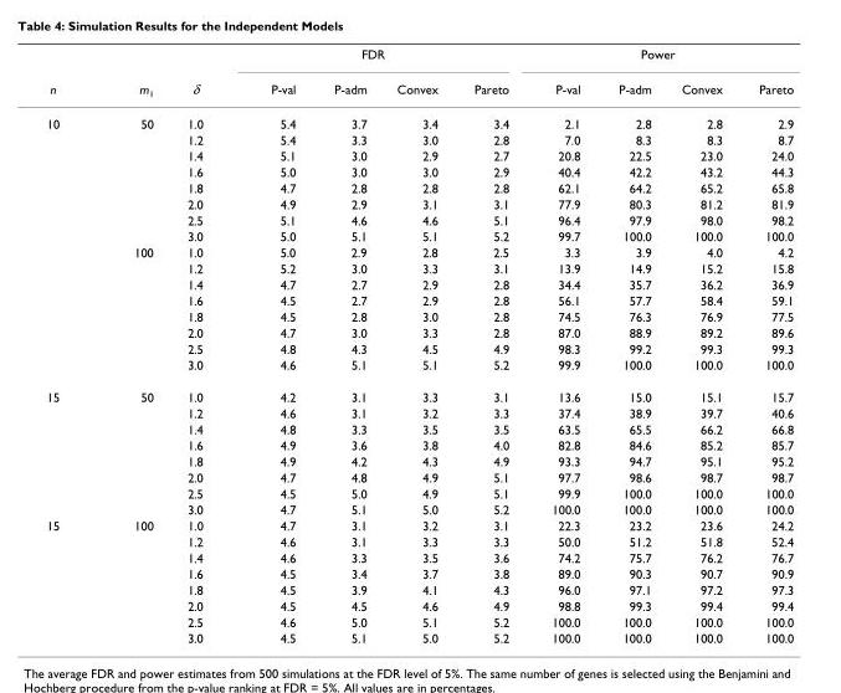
<table><thead><tr><td rowspan="2">n</td><td rowspan="2">m<sub>1</sub></td><td rowspan="2">δ</td><td colspan="4">FDR</td><td colspan="4">Power</td></tr><tr><td>P-val</td><td>P-adm</td><td>Convex</td><td>Pareto</td><td>P-val</td><td>P-adm</td><td>Convex</td><td>Pareto</td></tr></thead><tbody><tr><td rowspan="16">10</td><td>50</td><td>1.0</td><td>5.4</td><td>3.7</td><td>3.4</td><td>3.4</td><td>2.1</td><td>2.8</td><td>2.8</td><td>2.9</td></tr><tr><td></td><td>1.2</td><td>5.4</td><td>3.3</td><td>3.0</td><td>2.8</td><td>7.0</td><td>8.3</td><td>8.3</td><td>8.7</td></tr><tr><td></td><td>1.4</td><td>5.1</td><td>3.0</td><td>2.9</td><td>2.7</td><td>20.8</td><td>22.5</td><td>23.0</td><td>24.0</td></tr><tr><td></td><td>1.6</td><td>5.0</td><td>3.0</td><td>3.0</td><td>2.9</td><td>40.4</td><td>42.2</td><td>43.2</td><td>44.3</td></tr><tr><td></td><td>1.8</td><td>4.7</td><td>2.8</td><td>2.8</td><td>2.8</td><td>62.1</td><td>64.2</td><td>65.2</td><td>65.8</td></tr><tr><td></td><td>2.0</td><td>4.9</td><td>2.9</td><td>3.1</td><td>3.1</td><td>77.9</td><td>80.3</td><td>81.2</td><td>81.9</td></tr><tr><td></td><td>2.5</td><td>5.1</td><td>4.6</td><td>4.6</td><td>5.1</td><td>96.4</td><td>97.9</td><td>98.0</td><td>98.2</td></tr><tr><td></td><td>3.0</td><td>5.0</td><td>5.1</td><td>5.1</td><td>5.2</td><td>99.7</td><td>100.0</td><td>100.0</td><td>100.0</td></tr><tr><td>100</td><td>1.0</td><td>5.0</td><td>2.9</td><td>2.8</td><td>2.5</td><td>3.3</td><td>3.9</td><td>4.0</td><td>4.2</td></tr><tr><td></td><td>1.2</td><td>5.2</td><td>3.0</td><td>3.3</td><td>3.1</td><td>13.9</td><td>14.9</td><td>15.2</td><td>15.8</td></tr><tr><td></td><td>1.4</td><td>4.7</td><td>2.7</td><td>2.9</td><td>2.8</td><td>34.4</td><td>35.7</td><td>36.2</td><td>36.9</td></tr><tr><td></td><td>1.6</td><td>4.5</td><td>2.7</td><td>2.9</td><td>2.8</td><td>56.1</td><td>57.7</td><td>58.4</td><td>59.1</td></tr><tr><td></td><td>1.8</td><td>4.5</td><td>2.8</td><td>3.0</td><td>2.8</td><td>74.5</td><td>76.3</td><td>76.9</td><td>77.5</td></tr><tr><td></td><td>2.0</td><td>4.7</td><td>3.0</td><td>3.3</td><td>2.8</td><td>87.0</td><td>88.9</td><td>89.2</td><td>89.6</td></tr><tr><td></td><td>2.5</td><td>4.8</td><td>4.3</td><td>4.5</td><td>4.9</td><td>98.3</td><td>99.2</td><td>99.3</td><td>99.3</td></tr><tr><td></td><td>3.0</td><td>4.6</td><td>5.1</td><td>5.1</td><td>5.2</td><td>99.9</td><td>100.0</td><td>100.0</td><td>100.0</td></tr><tr><td rowspan="8">15</td><td>50</td><td>1.0</td><td>4.2</td><td>3.1</td><td>3.3</td><td>3.1</td><td>13.6</td><td>15.0</td><td>15.1</td><td>15.7</td></tr><tr><td></td><td>1.2</td><td>4.6</td><td>3.1</td><td>3.2</td><td>3.3</td><td>37.4</td><td>38.9</td><td>39.7</td><td>40.6</td></tr><tr><td></td><td>1.4</td><td>4.8</td><td>3.3</td><td>3.5</td><td>3.5</td><td>63.5</td><td>65.5</td><td>66.2</td><td>66.8</td></tr><tr><td></td><td>1.6</td><td>4.9</td><td>3.6</td><td>3.8</td><td>4.0</td><td>82.8</td><td>84.6</td><td>85.2</td><td>85.7</td></tr><tr><td></td><td>1.8</td><td>4.9</td><td>4.2</td><td>4.3</td><td>4.9</td><td>93.3</td><td>94.7</td><td>95.1</td><td>95.2</td></tr><tr><td></td><td>2.0</td><td>4.7</td><td>4.8</td><td>4.9</td><td>5.1</td><td>97.7</td><td>98.6</td><td>98.7</td><td>98.7</td></tr><tr><td></td><td>2.5</td><td>4.5</td><td>5.0</td><td>4.9</td><td>5.1</td><td>99.9</td><td>100.0</td><td>100.0</td><td>100.0</td></tr><tr><td></td><td>3.0</td><td>4.7</td><td>5.1</td><td>5.0</td><td>5.2</td><td>100.0</td><td>100.0</td><td>100.0</td><td>100.0</td></tr><tr><td rowspan="8">15</td><td>100</td><td>1.0</td><td>4.7</td><td>3.1</td><td>3.2</td><td>3.1</td><td>22.3</td><td>23.2</td><td>23.6</td><td>24.2</td></tr><tr><td></td><td>1.2</td><td>4.6</td><td>3.1</td><td>3.3</td><td>3.3</td><td>50.0</td><td>51.2</td><td>51.8</td><td>52.4</td></tr><tr><td></td><td>1.4</td><td>4.6</td><td>3.3</td><td>3.5</td><td>3.6</td><td>74.2</td><td>75.7</td><td>76.2</td><td>76.7</td></tr><tr><td></td><td>1.6</td><td>4.5</td><td>3.4</td><td>3.7</td><td>3.8</td><td>89.0</td><td>90.3</td><td>90.7</td><td>90.9</td></tr><tr><td></td><td>1.8</td><td>4.5</td><td>3.9</td><td>4.1</td><td>4.3</td><td>96.0</td><td>97.1</td><td>97.2</td><td>97.3</td></tr><tr><td></td><td>2.0</td><td>4.5</td><td>4.5</td><td>4.6</td><td>4.9</td><td>98.8</td><td>99.3</td><td>99.4</td><td>99.4</td></tr><tr><td></td><td>2.5</td><td>4.6</td><td>5.0</td><td>5.1</td><td>5.2</td><td>100.0</td><td>100.0</td><td>100.0</td><td>100.0</td></tr><tr><td></td><td>3.0</td><td>4.5</td><td>5.1</td><td>5.0</td><td>5.2</td><td>100.0</td><td>100.0</td><td>100.0</td><td>100.0</td></tr></tbody></table>